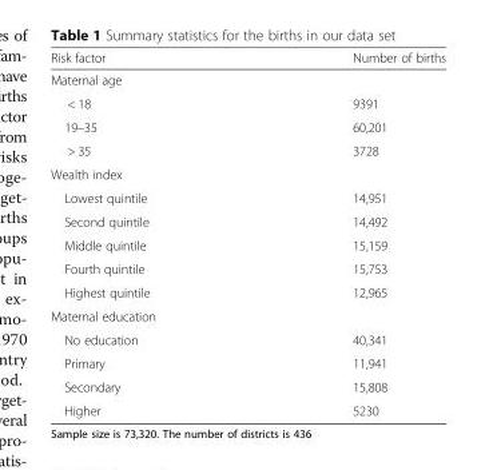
<table><thead><tr><td>Risk factor</td><td>Number of births</td></tr></thead><tbody><tr><td colspan="2">Maternal age</td></tr><tr><td>&lt; 18</td><td>9391</td></tr><tr><td>19–35</td><td>60,201</td></tr><tr><td>&gt; 35</td><td>3728</td></tr><tr><td colspan="2">Wealth index</td></tr><tr><td>Lowest quintile</td><td>14,951</td></tr><tr><td>Second quintile</td><td>14,492</td></tr><tr><td>Middle quintile</td><td>15,159</td></tr><tr><td>Fourth quintile</td><td>15,753</td></tr><tr><td>Highest quintile</td><td>12,965</td></tr><tr><td colspan="2">Maternal education</td></tr><tr><td>No education</td><td>40,341</td></tr><tr><td>Primary</td><td>11,941</td></tr><tr><td>Secondary</td><td>15,808</td></tr><tr><td>Higher</td><td>5230</td></tr></tbody></table>